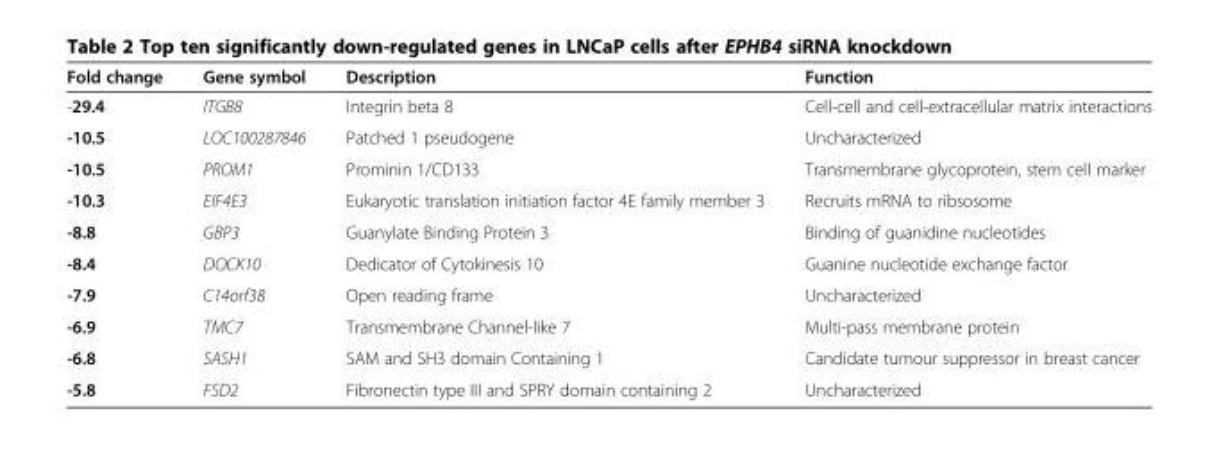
<table><thead><tr><td>Fold change</td><td>Gene symbol</td><td>Description</td><td>Function</td></tr></thead><tbody><tr><td>-29.4</td><td>ITGB8</td><td>Integrin beta 8</td><td>Cell-cell and cell-extracellular matrix interactions</td></tr><tr><td>-10.5</td><td>LOC100287846</td><td>Patched 1 pseudogene</td><td>Uncharacterized</td></tr><tr><td>-10.5</td><td>PROM1</td><td>Prominin 1/CD133</td><td>Transmembrane glycoprotein, stem cell marker</td></tr><tr><td>-10.3</td><td>EIF4E3</td><td>Eukaryotic translation initiation factor 4E family member 3</td><td>Recruits mRNA to ribsosome</td></tr><tr><td>-8.8</td><td>GBP3</td><td>Guanylate Binding Protein 3</td><td>Binding of guanidine nucleotides</td></tr><tr><td>-8.4</td><td>DOCK10</td><td>Dedicator of Cytokinesis 10</td><td>Guanine nucleotide exchange factor</td></tr><tr><td>-7.9</td><td>C14orf38</td><td>Open reading frame</td><td>Uncharacterized</td></tr><tr><td>-6.9</td><td>TMC7</td><td>Transmembrane Channel-like 7</td><td>Multi-pass membrane protein</td></tr><tr><td>-6.8</td><td>SASH1</td><td>SAM and SH3 domain Containing 1</td><td>Candidate tumour suppressor in breast cancer</td></tr><tr><td>-5.8</td><td>FSD2</td><td>Fibronectin type III and SPRY domain containing 2</td><td>Uncharacterized</td></tr></tbody></table>